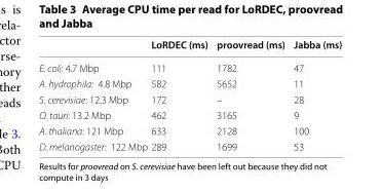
<table><thead><tr><td></td><td>LoRDEC (ms)</td><td>proovread (ms)</td><td>Jabba (ms)</td></tr></thead><tbody><tr><td>E. coli: 4.7 Mbp</td><td>111</td><td>1782</td><td>47</td></tr><tr><td>A. hydrophila: 4.8 Mbp</td><td>582</td><td>5652</td><td>11</td></tr><tr><td>S. cerevisiae: 12.3 Mbp</td><td>172</td><td>–</td><td>28</td></tr><tr><td>O. tauri: 13.2 Mbp</td><td>462</td><td>3165</td><td>9</td></tr><tr><td>A. thaliana: 121 Mbp</td><td>633</td><td>2128</td><td>100</td></tr><tr><td>D. melanogaster: 122 Mbp</td><td>289</td><td>1699</td><td>53</td></tr></tbody></table>